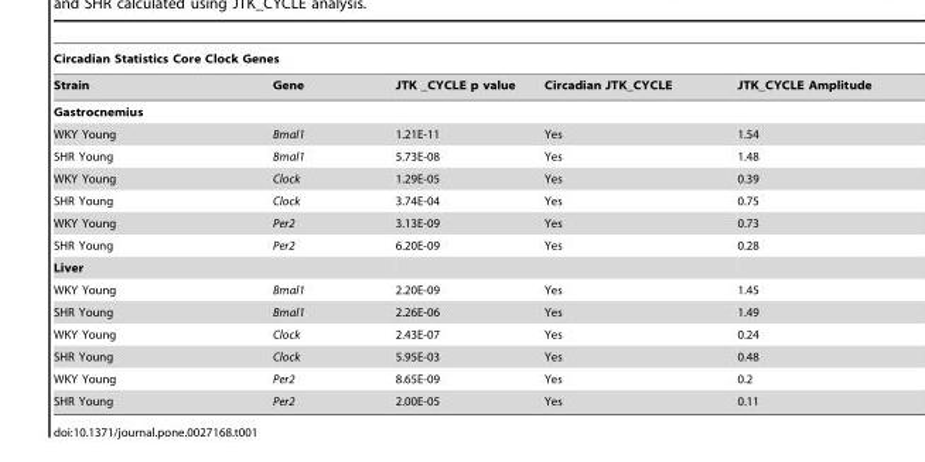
<table><thead><tr><td colspan="5">Circadian Statistics Core Clock Genes</td></tr><tr><td>Strain</td><td>Gene</td><td>JTK _CYCLE p value</td><td>Circadian JTK_CYCLE</td><td>JTK_CYCLE Amplitude</td></tr></thead><tbody><tr><td colspan="5">Gastrocnemius</td></tr><tr><td>WKY Young</td><td>Bmal1</td><td>1.21E-11</td><td>Yes</td><td>1.54</td></tr><tr><td>SHR Young</td><td>Bmal1</td><td>5.73E-08</td><td>Yes</td><td>1.48</td></tr><tr><td>WKY Young</td><td>Clock</td><td>1.29E-05</td><td>Yes</td><td>0.39</td></tr><tr><td>SHR Young</td><td>Clock</td><td>3.74E-04</td><td>Yes</td><td>0.75</td></tr><tr><td>WKY Young</td><td>Per2</td><td>3.13E-09</td><td>Yes</td><td>0.73</td></tr><tr><td>SHR Young</td><td>Per2</td><td>6.20E-09</td><td>Yes</td><td>0.28</td></tr><tr><td colspan="5">Liver</td></tr><tr><td>WKY Young</td><td>Bmal1</td><td>2.20E-09</td><td>Yes</td><td>1.45</td></tr><tr><td>SHR Young</td><td>Bmal1</td><td>2.26E-06</td><td>Yes</td><td>1.49</td></tr><tr><td>WKY Young</td><td>Clock</td><td>2.43E-07</td><td>Yes</td><td>0.24</td></tr><tr><td>SHR Young</td><td>Clock</td><td>5.95E-03</td><td>Yes</td><td>0.48</td></tr><tr><td>WKY Young</td><td>Per2</td><td>8.65E-09</td><td>Yes</td><td>0.2</td></tr><tr><td>SHR Young</td><td>Per2</td><td>2.00E-05</td><td>Yes</td><td>0.11</td></tr></tbody></table>